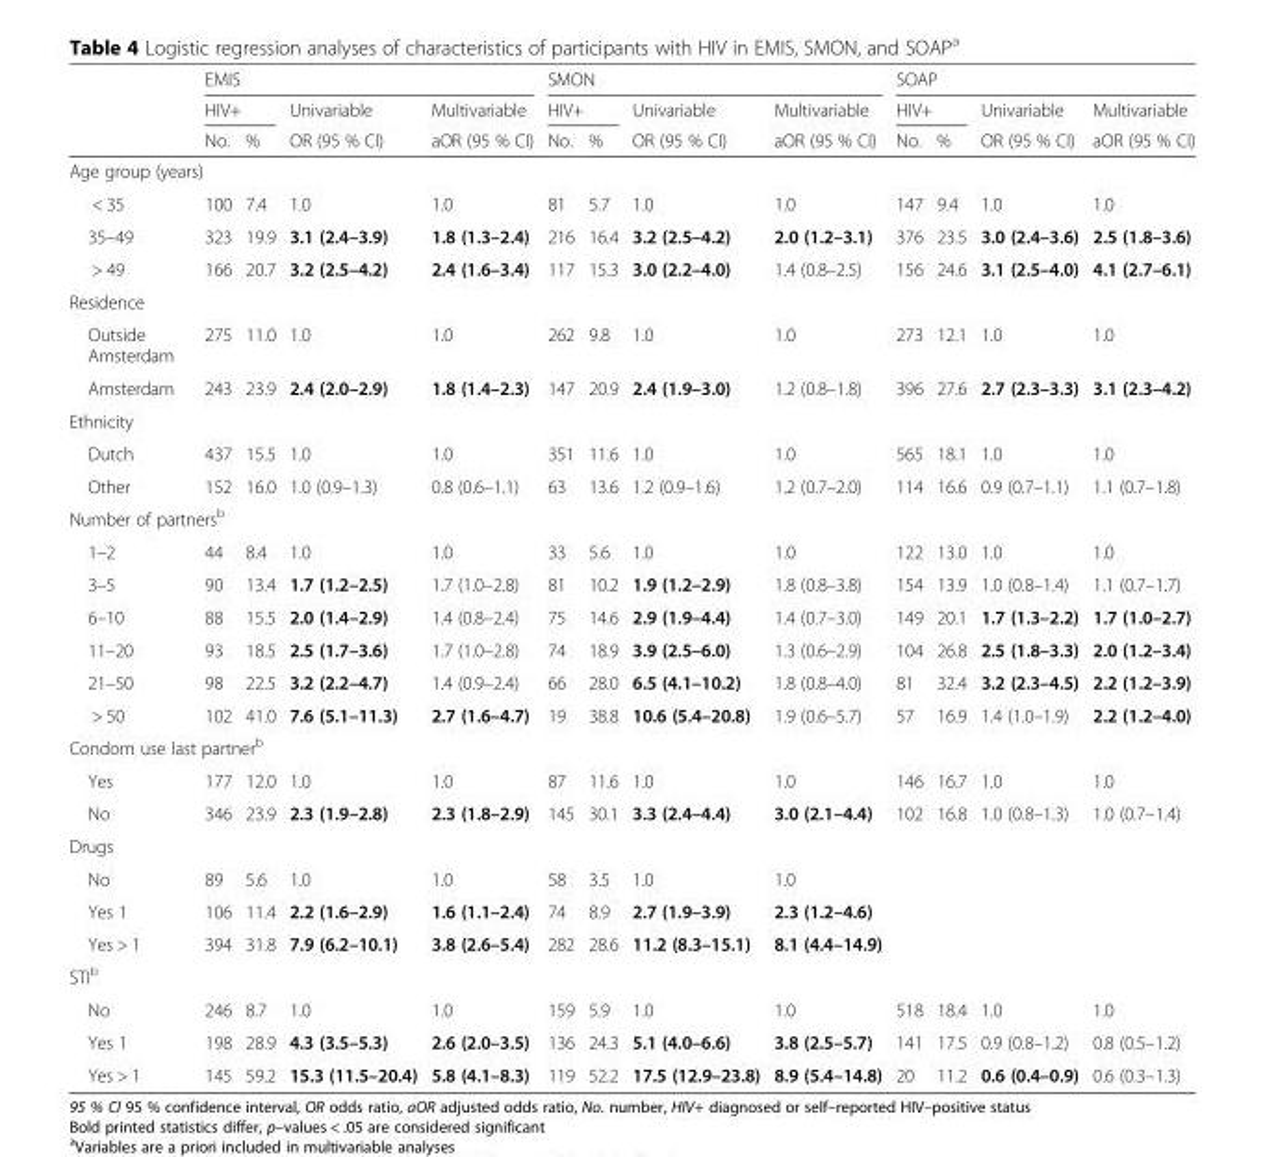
<table><thead><tr><td rowspan="3"></td><td colspan="4">EMIS</td><td colspan="4">SMON</td><td colspan="4">SOAP</td></tr><tr><td colspan="2">HIV+</td><td rowspan="2">Univariable OR (95 % CI)</td><td rowspan="2">Multivariable aOR (95 % CI)</td><td colspan="2">HIV+</td><td rowspan="2">Univariable OR (95 % CI)</td><td rowspan="2">Multivariable aOR (95 % CI)</td><td colspan="2">HIV+</td><td rowspan="2">Univariable OR (95 % CI)</td><td rowspan="2">Multivariable aOR (95 % CI)</td></tr><tr><td>No.</td><td>%</td><td>No.</td><td>%</td><td>No.</td><td>%</td></tr></thead><tbody><tr><td colspan="13">Age group (years)</td></tr><tr><td>&lt; 35</td><td>100</td><td>7.4</td><td>1.0</td><td>1.0</td><td>81</td><td>5.7</td><td>1.0</td><td>1.0</td><td>147</td><td>9.4</td><td>1.0</td><td>1.0</td></tr><tr><td>35–49</td><td>323</td><td>19.9</td><td>3.1 (2.4–3.9)</td><td>1.8 (1.3–2.4)</td><td>216</td><td>16.4</td><td>3.2 (2.5–4.2)</td><td>2.0 (1.2–3.1)</td><td>376</td><td>23.5</td><td>3.0 (2.4–3.6)</td><td>2.5 (1.8–3.6)</td></tr><tr><td>&gt; 49</td><td>166</td><td>20.7</td><td>3.2 (2.5–4.2)</td><td>2.4 (1.6–3.4)</td><td>117</td><td>15.3</td><td>3.0 (2.2–4.0)</td><td>1.4 (0.8–2.5)</td><td>156</td><td>24.6</td><td>3.1 (2.5–4.0)</td><td>4.1 (2.7–6.1)</td></tr><tr><td colspan="13">Residence</td></tr><tr><td>Outside Amsterdam</td><td>275</td><td>11.0</td><td>1.0</td><td>1.0</td><td>262</td><td>9.8</td><td>1.0</td><td>1.0</td><td>273</td><td>12.1</td><td>1.0</td><td>1.0</td></tr><tr><td>Amsterdam</td><td>243</td><td>23.9</td><td>2.4 (2.0–2.9)</td><td>1.8 (1.4–2.3)</td><td>147</td><td>20.9</td><td>2.4 (1.9–3.0)</td><td>1.2 (0.8–1.8)</td><td>396</td><td>27.6</td><td>2.7 (2.3–3.3)</td><td>3.1 (2.3–4.2)</td></tr><tr><td colspan="13">Ethnicity</td></tr><tr><td>Dutch</td><td>437</td><td>15.5</td><td>1.0</td><td>1.0</td><td>351</td><td>11.6</td><td>1.0</td><td>1.0</td><td>565</td><td>18.1</td><td>1.0</td><td>1.0</td></tr><tr><td>Other</td><td>152</td><td>16.0</td><td>1.0 (0.9–1.3)</td><td>0.8 (0.6–1.1)</td><td>63</td><td>13.6</td><td>1.2 (0.9–1.6)</td><td>1.2 (0.7–2.0)</td><td>114</td><td>16.6</td><td>0.9 (0.7–1.1)</td><td>1.1 (0.7–1.8)</td></tr><tr><td colspan="13">Number of partners<sup>b</sup></td></tr><tr><td>1–2</td><td>44</td><td>8.4</td><td>1.0</td><td>1.0</td><td>33</td><td>5.6</td><td>1.0</td><td>1.0</td><td>122</td><td>13.0</td><td>1.0</td><td>1.0</td></tr><tr><td>3–5</td><td>90</td><td>13.4</td><td>1.7 (1.2–2.5)</td><td>1.7 (1.0–2.8)</td><td>81</td><td>10.2</td><td>1.9 (1.2–2.9)</td><td>1.8 (0.8–3.8)</td><td>154</td><td>13.9</td><td>1.0 (0.8–1.4)</td><td>1.1 (0.7–1.7)</td></tr><tr><td>6–10</td><td>88</td><td>15.5</td><td>2.0 (1.4–2.9)</td><td>1.4 (0.8–2.4)</td><td>75</td><td>14.6</td><td>2.9 (1.9–4.4)</td><td>1.4 (0.7–3.0)</td><td>149</td><td>20.1</td><td>1.7 (1.3–2.2)</td><td>1.7 (1.0–2.7)</td></tr><tr><td>11–20</td><td>93</td><td>18.5</td><td>2.5 (1.7–3.6)</td><td>1.7 (1.0–2.8)</td><td>74</td><td>18.9</td><td>3.9 (2.5–6.0)</td><td>1.3 (0.6–2.9)</td><td>104</td><td>26.8</td><td>2.5 (1.8–3.3)</td><td>2.0 (1.2–3.4)</td></tr><tr><td>21–50</td><td>98</td><td>22.5</td><td>3.2 (2.2–4.7)</td><td>1.4 (0.9–2.4)</td><td>66</td><td>28.0</td><td>6.5 (4.1–10.2)</td><td>1.8 (0.8–4.0)</td><td>81</td><td>32.4</td><td>3.2 (2.3–4.5)</td><td>2.2 (1.2–3.9)</td></tr><tr><td>&gt; 50</td><td>102</td><td>41.0</td><td>7.6 (5.1–11.3)</td><td>2.7 (1.6–4.7)</td><td>19</td><td>38.8</td><td>10.6 (5.4–20.8)</td><td>1.9 (0.6–5.7)</td><td>57</td><td>16.9</td><td>1.4 (1.0–1.9)</td><td>2.2 (1.2–4.0)</td></tr><tr><td colspan="13">Condom use last partner<sup>b</sup></td></tr><tr><td>Yes</td><td>177</td><td>12.0</td><td>1.0</td><td>1.0</td><td>87</td><td>11.6</td><td>1.0</td><td>1.0</td><td>146</td><td>16.7</td><td>1.0</td><td>1.0</td></tr><tr><td>No</td><td>346</td><td>23.9</td><td>2.3 (1.9–2.8)</td><td>2.3 (1.8–2.9)</td><td>145</td><td>30.1</td><td>3.3 (2.4–4.4)</td><td>3.0 (2.1–4.4)</td><td>102</td><td>16.8</td><td>1.0 (0.8–1.3)</td><td>1.0 (0.7–1.4)</td></tr><tr><td colspan="13">Drugs</td></tr><tr><td>No</td><td>89</td><td>5.6</td><td>1.0</td><td>1.0</td><td>58</td><td>3.5</td><td>1.0</td><td>1.0</td><td></td><td></td><td></td><td></td></tr><tr><td>Yes 1</td><td>106</td><td>11.4</td><td>2.2 (1.6–2.9)</td><td>1.6 (1.1–2.4)</td><td>74</td><td>8.9</td><td>2.7 (1.9–3.9)</td><td>2.3 (1.2–4.6)</td><td></td><td></td><td></td><td></td></tr><tr><td>Yes &gt; 1</td><td>394</td><td>31.8</td><td>7.9 (6.2–10.1)</td><td>3.8 (2.6–5.4)</td><td>282</td><td>28.6</td><td>11.2 (8.3–15.1)</td><td>8.1 (4.4–14.9)</td><td></td><td></td><td></td><td></td></tr><tr><td colspan="13">STI<sup>b</sup></td></tr><tr><td>No</td><td>246</td><td>8.7</td><td>1.0</td><td>1.0</td><td>159</td><td>5.9</td><td>1.0</td><td>1.0</td><td>518</td><td>18.4</td><td>1.0</td><td>1.0</td></tr><tr><td>Yes 1</td><td>198</td><td>28.9</td><td>4.3 (3.5–5.3)</td><td>2.6 (2.0–3.5)</td><td>136</td><td>24.3</td><td>5.1 (4.0–6.6)</td><td>3.8 (2.5–5.7)</td><td>141</td><td>17.5</td><td>0.9 (0.8–1.2)</td><td>0.8 (0.5–1.2)</td></tr><tr><td>Yes &gt; 1</td><td>145</td><td>59.2</td><td>15.3 (11.5–20.4)</td><td>5.8 (4.1–8.3)</td><td>119</td><td>52.2</td><td>17.5 (12.9–23.8)</td><td>8.9 (5.4–14.8)</td><td>20</td><td>11.2</td><td>0.6 (0.4–0.9)</td><td>0.6 (0.3–1.3)</td></tr></tbody></table>